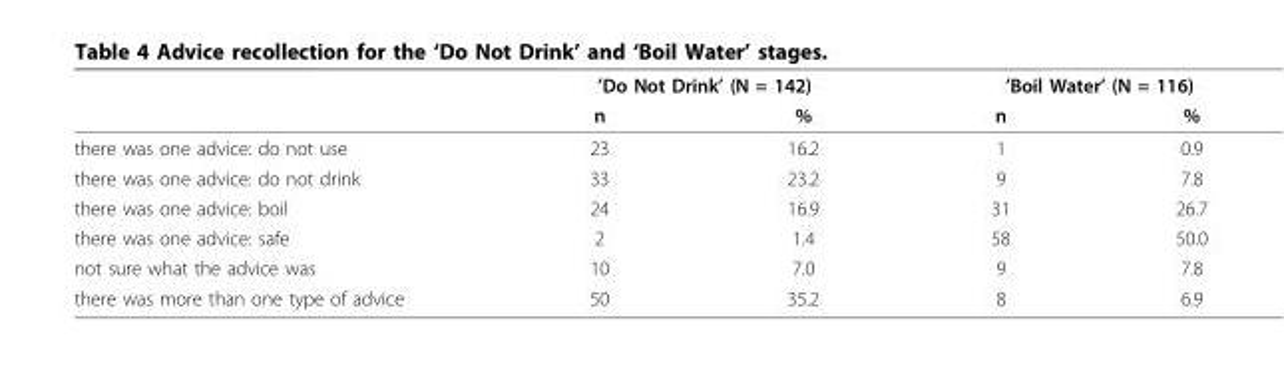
<table><thead><tr><td rowspan="2"></td><td colspan="2">’Do Not Drink’ (N = 142)</td><td colspan="2">’Boil Water’ (N = 116)</td></tr><tr><td>n</td><td>%</td><td>n</td><td>%</td></tr></thead><tbody><tr><td>there was one advice: do not use</td><td>23</td><td>16.2</td><td>1</td><td>0.9</td></tr><tr><td>there was one advice: do not drink</td><td>33</td><td>23.2</td><td>9</td><td>7.8</td></tr><tr><td>there was one advice: boil</td><td>24</td><td>16.9</td><td>31</td><td>26.7</td></tr><tr><td>there was one advice: safe</td><td>2</td><td>1.4</td><td>58</td><td>50.0</td></tr><tr><td>not sure what the advice was</td><td>10</td><td>7.0</td><td>9</td><td>7.8</td></tr><tr><td>there was more than one type of advice</td><td>50</td><td>35.2</td><td>8</td><td>6.9</td></tr></tbody></table>